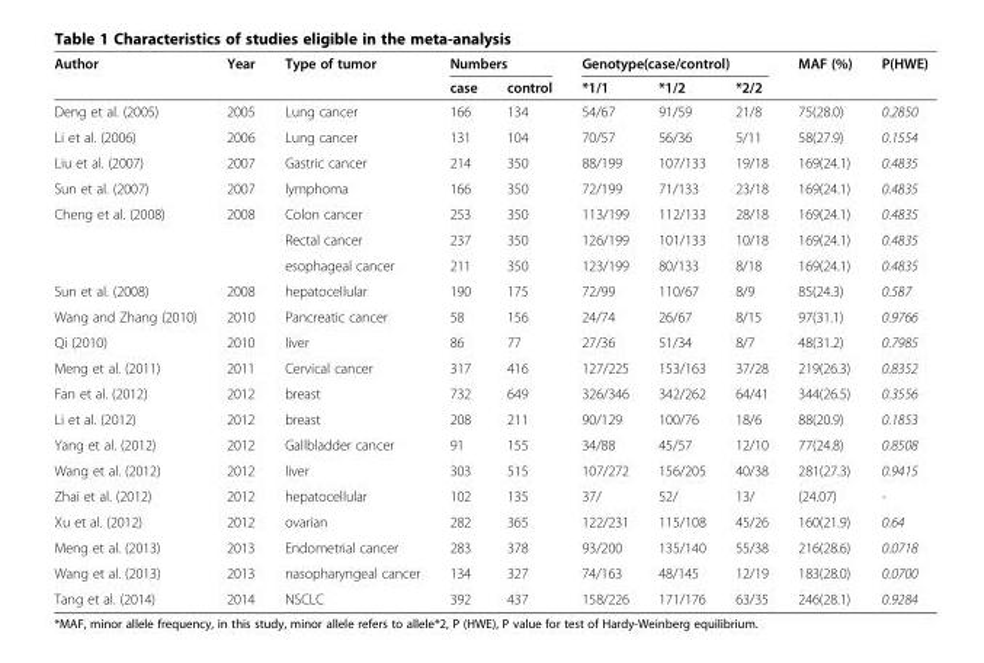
<table><thead><tr><td rowspan="2">Author</td><td rowspan="2">Year</td><td rowspan="2">Type of tumor</td><td colspan="2">Numbers</td><td colspan="3">Genotype(case/control)</td><td rowspan="2">MAF (%)</td><td rowspan="2">P(HWE)</td></tr><tr><td>case</td><td>control</td><td>*1/1</td><td>*1/2</td><td>*2/2</td></tr></thead><tbody><tr><td>Deng et al. (2005)</td><td>2005</td><td>Lung cancer</td><td>166</td><td>134</td><td>54/67</td><td>91/59</td><td>21/8</td><td>75(28.0)</td><td>0.2850</td></tr><tr><td>Li et al. (2006)</td><td>2006</td><td>Lung cancer</td><td>131</td><td>104</td><td>70/57</td><td>56/36</td><td>5/11</td><td>58(27.9)</td><td>0.1554</td></tr><tr><td>Liu et al. (2007)</td><td>2007</td><td>Gastric cancer</td><td>214</td><td>350</td><td>88/199</td><td>107/133</td><td>19/18</td><td>169(24.1)</td><td>0.4835</td></tr><tr><td>Sun et al. (2007)</td><td>2007</td><td>lymphoma</td><td>166</td><td>350</td><td>72/199</td><td>71/133</td><td>23/18</td><td>169(24.1)</td><td>0.4835</td></tr><tr><td rowspan="3">Cheng et al. (2008)</td><td>2008</td><td>Colon cancer</td><td>253</td><td>350</td><td>113/199</td><td>112/133</td><td>28/18</td><td>169(24.1)</td><td>0.4835</td></tr><tr><td></td><td>Rectal cancer</td><td>237</td><td>350</td><td>126/199</td><td>101/133</td><td>10/18</td><td>169(24.1)</td><td>0.4835</td></tr><tr><td></td><td>esophageal cancer</td><td>211</td><td>350</td><td>123/199</td><td>80/133</td><td>8/18</td><td>169(24.1)</td><td>0.4835</td></tr><tr><td>Sun et al. (2008)</td><td>2008</td><td>hepatocellular</td><td>190</td><td>175</td><td>72/99</td><td>110/67</td><td>8/9</td><td>85(24.3)</td><td>0.587</td></tr><tr><td>Wang and Zhang (2010)</td><td>2010</td><td>Pancreatic cancer</td><td>58</td><td>156</td><td>24/74</td><td>26/67</td><td>8/15</td><td>97(31.1)</td><td>0.9766</td></tr><tr><td>Qi (2010)</td><td>2010</td><td>liver</td><td>86</td><td>77</td><td>27/36</td><td>51/34</td><td>8/7</td><td>48(31.2)</td><td>0.7985</td></tr><tr><td>Meng et al. (2011)</td><td>2011</td><td>Cervical cancer</td><td>317</td><td>416</td><td>127/225</td><td>153/163</td><td>37/28</td><td>219(26.3)</td><td>0.8352</td></tr><tr><td>Fan et al. (2012)</td><td>2012</td><td>breast</td><td>732</td><td>649</td><td>326/346</td><td>342/262</td><td>64/41</td><td>344(26.5)</td><td>0.3556</td></tr><tr><td>Li et al. (2012)</td><td>2012</td><td>breast</td><td>208</td><td>211</td><td>90/129</td><td>100/76</td><td>18/6</td><td>88(20.9)</td><td>0.1853</td></tr><tr><td>Yang et al. (2012)</td><td>2012</td><td>Gallbladder cancer</td><td>91</td><td>155</td><td>34/88</td><td>45/57</td><td>12/10</td><td>77(24.8)</td><td>0.8508</td></tr><tr><td>Wang et al. (2012)</td><td>2012</td><td>liver</td><td>303</td><td>515</td><td>107/272</td><td>156/205</td><td>40/38</td><td>281(27.3)</td><td>0.9415</td></tr><tr><td>Zhai et al. (2012)</td><td>2012</td><td>hepatocellular</td><td>102</td><td>135</td><td>37/</td><td>52/</td><td>13/</td><td>(24.07)</td><td>-</td></tr><tr><td>Xu et al. (2012)</td><td>2012</td><td>ovarian</td><td>282</td><td>365</td><td>122/231</td><td>115/108</td><td>45/26</td><td>160(21.9)</td><td>0.64</td></tr><tr><td>Meng et al. (2013)</td><td>2013</td><td>Endometrial cancer</td><td>283</td><td>378</td><td>93/200</td><td>135/140</td><td>55/38</td><td>216(28.6)</td><td>0.0718</td></tr><tr><td>Wang et al. (2013)</td><td>2013</td><td>nasopharyngeal cancer</td><td>134</td><td>327</td><td>74/163</td><td>48/145</td><td>12/19</td><td>183(28.0)</td><td>0.0700</td></tr><tr><td>Tang et al. (2014)</td><td>2014</td><td>NSCLC</td><td>392</td><td>437</td><td>158/226</td><td>171/176</td><td>63/35</td><td>246(28.1)</td><td>0.9284</td></tr></tbody></table>